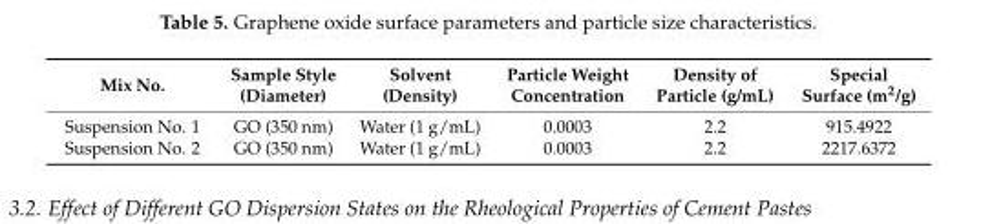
<table><thead><tr><td>Mix No.</td><td>Sample Style (Diameter)</td><td>Solvent (Density)</td><td>Particle Weight Concentration</td><td>Density of Particle (g/mL)</td><td>Special Surface (m<sup>2</sup>/g)</td></tr></thead><tbody><tr><td>Suspension No. 1</td><td>GO (350 nm)</td><td>Water (1 g/mL)</td><td>0.0003</td><td>2.2</td><td>915.4922</td></tr><tr><td>Suspension No. 2</td><td>GO (350 nm)</td><td>Water (1 g/mL)</td><td>0.0003</td><td>2.2</td><td>2217.6372</td></tr></tbody></table>